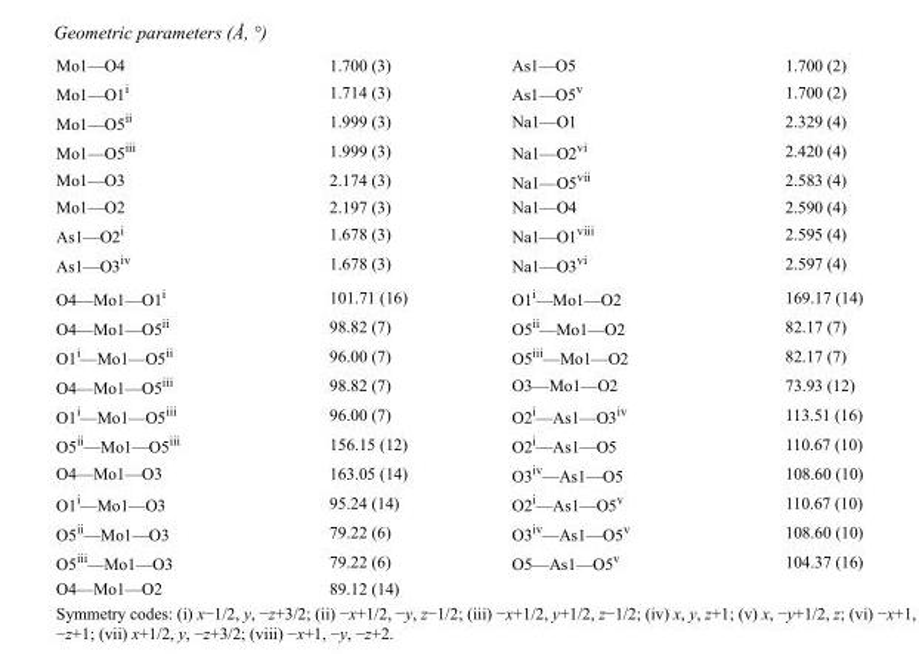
<table><tbody><tr><td>Mo1—O4</td><td>1.700 (3)</td><td>As1—O5</td><td>1.700 (2)</td></tr><tr><td>Mo1—O1<sup>i</sup></td><td>1.714 (3)</td><td>As1—O5<sup>v</sup></td><td>1.700 (2)</td></tr><tr><td>Mo1—O5<sup>ii</sup></td><td>1.999 (3)</td><td>Na1—O1</td><td>2.329 (4)</td></tr><tr><td>Mo1—O5<sup>iii</sup></td><td>1.999 (3)</td><td>Na1—O2<sup>vi</sup></td><td>2.420 (4)</td></tr><tr><td>Mo1—O3</td><td>2.174 (3)</td><td>Na1—O5<sup>vii</sup></td><td>2.583 (4)</td></tr><tr><td>Mo1—O2</td><td>2.197 (3)</td><td>Na1—O4</td><td>2.590 (4)</td></tr><tr><td>As1—O2<sup>i</sup></td><td>1.678 (3)</td><td>Na1—O1<sup>viii</sup></td><td>2.595 (4)</td></tr><tr><td>As1—O3<sup>iv</sup></td><td>1.678 (3)</td><td>Na1—O3<sup>vi</sup></td><td>2.597 (4)</td></tr><tr><td>O4—Mo1—O1<sup>i</sup></td><td>101.71 (16)</td><td>O1<sup>i</sup>—Mo1—O2</td><td>169.17 (14)</td></tr><tr><td>O4—Mo1—O5<sup>ii</sup></td><td>98.82 (7)</td><td>O5<sup>ii</sup>—Mo1—O2</td><td>82.17 (7)</td></tr><tr><td>O1<sup>i</sup>—Mo1—O5<sup>ii</sup></td><td>96.00 (7)</td><td>O5<sup>iii</sup>—Mo1—O2</td><td>82.17 (7)</td></tr><tr><td>O4—Mo1—O5<sup>iii</sup></td><td>98.82 (7)</td><td>O3—Mo1—O2</td><td>73.93 (12)</td></tr><tr><td>O1<sup>i</sup>—Mo1—O5<sup>iii</sup></td><td>96.00 (7)</td><td>O2<sup>i</sup>—As1—O3<sup>iv</sup></td><td>113.51 (16)</td></tr><tr><td>O5<sup>ii</sup>—Mo1—O5<sup>iii</sup></td><td>156.15 (12)</td><td>O2<sup>i</sup>—As1—O5</td><td>110.67 (10)</td></tr><tr><td>O4—Mo1—O3</td><td>163.05 (14)</td><td>O3<sup>iv</sup>—As1—O5</td><td>108.60 (10)</td></tr><tr><td>O1<sup>i</sup>—Mo1—O3</td><td>95.24 (14)</td><td>O2<sup>i</sup>—As1—O5<sup>v</sup></td><td>110.67 (10)</td></tr><tr><td>O5<sup>ii</sup>—Mo1—O3</td><td>79.22 (6)</td><td>O3<sup>iv</sup>—As1—O5<sup>v</sup></td><td>108.60 (10)</td></tr><tr><td>O5<sup>iii</sup>—Mo1—O3</td><td>79.22 (6)</td><td>O5—As1—O5<sup>v</sup></td><td>104.37 (16)</td></tr><tr><td>O4—Mo1—O2</td><td>89.12 (14)</td><td></td><td></td></tr></tbody></table>